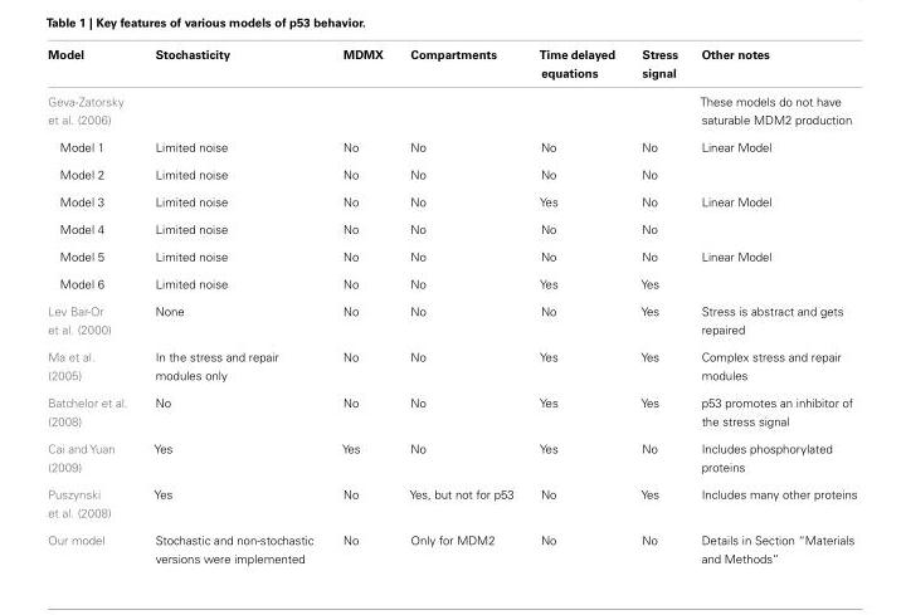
<table><thead><tr><td>Model</td><td>Stochasticity</td><td>MDMX</td><td>Compartments</td><td>Time delayed equations</td><td>Stress signal</td><td>Other notes</td></tr></thead><tbody><tr><td>Geva-Zatorsky et al. (2006)</td><td></td><td></td><td></td><td></td><td></td><td>These models do not have saturable MDM2 production</td></tr><tr><td>Model 1</td><td>Limited noise</td><td>No</td><td>No</td><td>No</td><td>No</td><td>Linear Model</td></tr><tr><td>Model 2</td><td>Limited noise</td><td>No</td><td>No</td><td>No</td><td>No</td><td></td></tr><tr><td>Model 3</td><td>Limited noise</td><td>No</td><td>No</td><td>Yes</td><td>No</td><td>Linear Model</td></tr><tr><td>Model 4</td><td>Limited noise</td><td>No</td><td>No</td><td>No</td><td>No</td><td></td></tr><tr><td>Model 5</td><td>Limited noise</td><td>No</td><td>No</td><td>No</td><td>No</td><td>Linear Model</td></tr><tr><td>Model 6</td><td>Limited noise</td><td>No</td><td>No</td><td>Yes</td><td>Yes</td><td></td></tr><tr><td>Lev Bar-Or et al. (2000)</td><td>None</td><td>No</td><td>No</td><td>No</td><td>Yes</td><td>Stress is abstract and gets repaired</td></tr><tr><td>Ma et al. (2005)</td><td>In the stress and repair modules only</td><td>No</td><td>No</td><td>Yes</td><td>Yes</td><td>Complex stress and repair modules</td></tr><tr><td>Batchelor et al. (2008)</td><td>No</td><td>No</td><td>No</td><td>Yes</td><td>Yes</td><td>p53 promotes an inhibitor of the stress signal</td></tr><tr><td>Cai and Yuan (2009)</td><td>Yes</td><td>Yes</td><td>No</td><td>Yes</td><td>No</td><td>Includes phosphorylated proteins</td></tr><tr><td>Puszynski et al. (2008)</td><td>Yes</td><td>No</td><td>Yes, but not for p53</td><td>No</td><td>Yes</td><td>Includes many other proteins</td></tr><tr><td>Our model</td><td>Stochastic and non-stochastic versions were implemented</td><td>No</td><td>Only for MDM2</td><td>No</td><td>No</td><td>Details in Section “Materials and Methods”</td></tr></tbody></table>